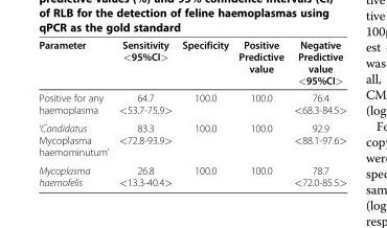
<table><thead><tr><td>Parameter</td><td>Sensitivity &lt;95%CI&gt;</td><td>Specificity</td><td>Positive Predictive value</td><td>Negative Predictive value &lt;95%CI&gt;</td></tr></thead><tbody><tr><td>Positive for any haemoplasma</td><td>64.7 &lt;53.7-75.9&gt;</td><td>100.0</td><td>100.0</td><td>76.4 &lt;68.3-84.5&gt;</td></tr><tr><td>‘Candidatus Mycoplasma haemominutum’</td><td>83.3 &lt;72.8-93.9&gt;</td><td>100.0</td><td>100.0</td><td>92.9 &lt;88.1-97.6&gt;</td></tr><tr><td>Mycoplasma haemofelis</td><td>26.8 &lt;13.3-40.4&gt;</td><td>100.0</td><td>100.0</td><td>78.7 &lt;72.0-85.5&gt;</td></tr></tbody></table>